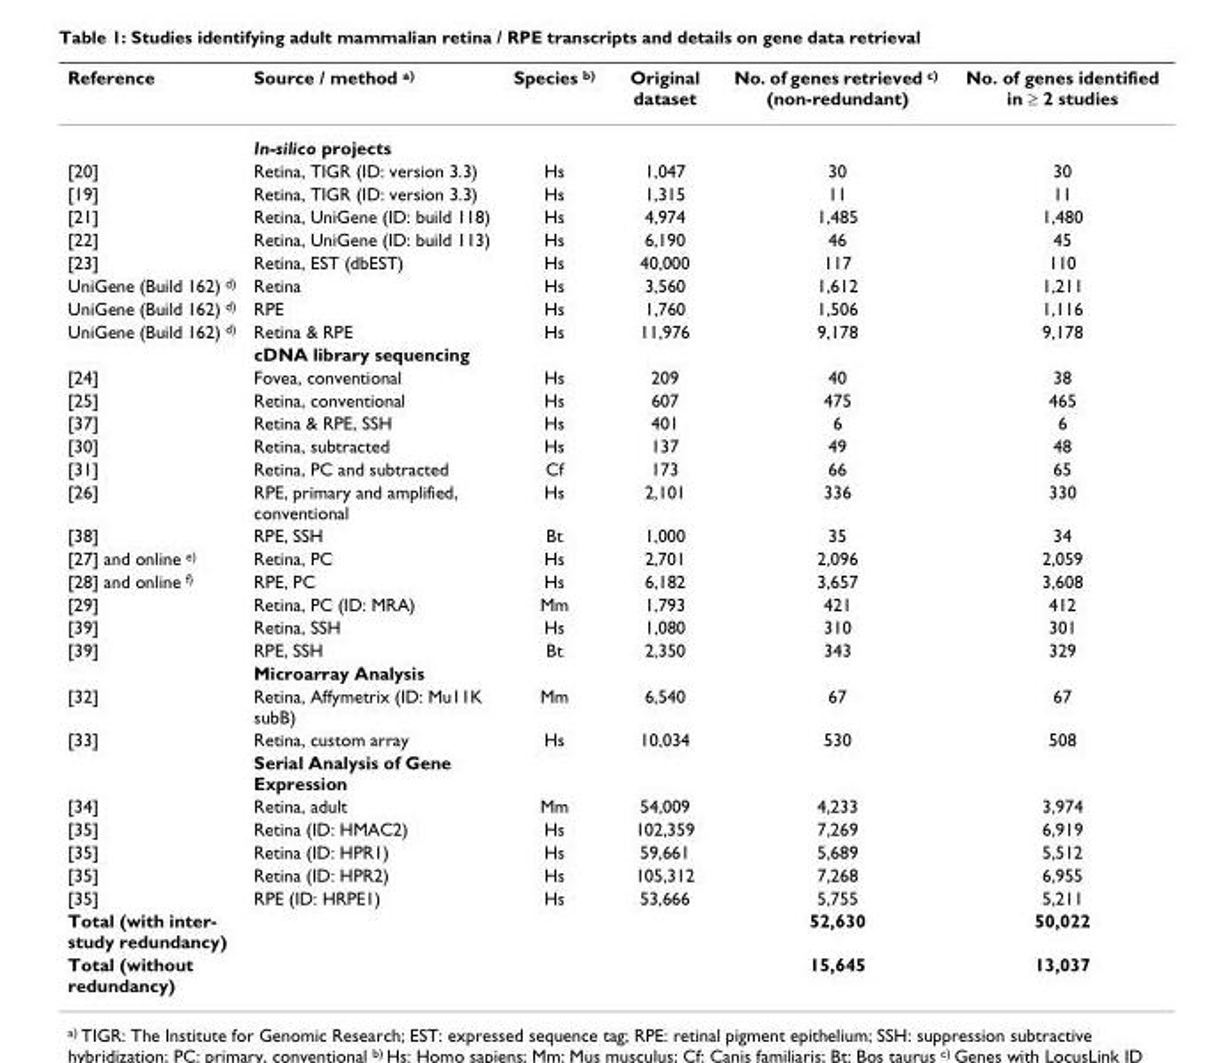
<table><thead><tr><td>Reference</td><td>Source / method <sup>a)</sup></td><td>Species <sup>b)</sup></td><td>Original dataset</td><td>No. of genes retrieved <sup>c)</sup> (non-redundant)</td><td>No. of genes identified in ≥ 2 studies</td></tr></thead><tbody><tr><td></td><td>In-silico projects</td><td></td><td></td><td></td><td></td></tr><tr><td>[20]</td><td>Retina, TIGR (ID: version 3.3)</td><td>Hs</td><td>1,047</td><td>30</td><td>30</td></tr><tr><td>[19]</td><td>Retina, TIGR (ID: version 3.3)</td><td>Hs</td><td>1,315</td><td>11</td><td>11</td></tr><tr><td>[21]</td><td>Retina, UniGene (ID: build 118)</td><td>Hs</td><td>4,974</td><td>1,485</td><td>1,480</td></tr><tr><td>[22]</td><td>Retina, UniGene (ID: build 113)</td><td>Hs</td><td>6,190</td><td>46</td><td>45</td></tr><tr><td>[23]</td><td>Retina, EST (dbEST)</td><td>Hs</td><td>40,000</td><td>117</td><td>110</td></tr><tr><td>UniGene (Build 162) <sup>d)</sup></td><td>Retina</td><td>Hs</td><td>3,560</td><td>1,612</td><td>1,211</td></tr><tr><td>UniGene (Build 162) <sup>d)</sup></td><td>RPE</td><td>Hs</td><td>1,760</td><td>1,506</td><td>1,116</td></tr><tr><td rowspan="2">UniGene (Build 162) <sup>d)</sup></td><td>Retina &amp; RPE</td><td>Hs</td><td>11,976</td><td>9,178</td><td>9,178</td></tr><tr><td>cDNA library sequencing</td><td></td><td></td><td></td><td></td></tr><tr><td>[24]</td><td>Fovea, conventional</td><td>Hs</td><td>209</td><td>40</td><td>38</td></tr><tr><td>[25]</td><td>Retina, conventional</td><td>Hs</td><td>607</td><td>475</td><td>465</td></tr><tr><td>[37]</td><td>Retina &amp; RPE, SSH</td><td>Hs</td><td>401</td><td>6</td><td>6</td></tr><tr><td>[30]</td><td>Retina, subtracted</td><td>Hs</td><td>137</td><td>49</td><td>48</td></tr><tr><td>[31]</td><td>Retina, PC and subtracted</td><td>Cf</td><td>173</td><td>66</td><td>65</td></tr><tr><td>[26]</td><td>RPE, primary and amplified, conventional</td><td>Hs</td><td>2,101</td><td>336</td><td>330</td></tr><tr><td>[38]</td><td>RPE, SSH</td><td>Bt</td><td>1,000</td><td>35</td><td>34</td></tr><tr><td>[27] and online <sup>e)</sup></td><td>Retina, PC</td><td>Hs</td><td>2,701</td><td>2,096</td><td>2,059</td></tr><tr><td>[28] and online <sup>f)</sup></td><td>RPE, PC</td><td>Hs</td><td>6,182</td><td>3,657</td><td>3,608</td></tr><tr><td>[29]</td><td>Retina, PC (ID: MRA)</td><td>Mm</td><td>1,793</td><td>421</td><td>412</td></tr><tr><td>[39]</td><td>Retina, SSH</td><td>Hs</td><td>1,080</td><td>310</td><td>301</td></tr><tr><td rowspan="2">[39]</td><td>RPE, SSH</td><td>Bt</td><td>2,350</td><td>343</td><td>329</td></tr><tr><td>Microarray Analysis</td><td></td><td></td><td></td><td></td></tr><tr><td>[32]</td><td>Retina, Affymetrix (ID: Mu11K subB)</td><td>Mm</td><td>6,540</td><td>67</td><td>67</td></tr><tr><td rowspan="2">[33]</td><td>Retina, custom array</td><td>Hs</td><td>10,034</td><td>530</td><td>508</td></tr><tr><td>Serial Analysis of Gene Expression</td><td></td><td></td><td></td><td></td></tr><tr><td>[34]</td><td>Retina, adult</td><td>Mm</td><td>54,009</td><td>4,233</td><td>3,974</td></tr><tr><td>[35]</td><td>Retina (ID: HMAC2)</td><td>Hs</td><td>102,359</td><td>7,269</td><td>6,919</td></tr><tr><td>[35]</td><td>Retina (ID: HPR1)</td><td>Hs</td><td>59,661</td><td>5,689</td><td>5,512</td></tr><tr><td>[35]</td><td>Retina (ID: HPR2)</td><td>Hs</td><td>105,312</td><td>7,268</td><td>6,955</td></tr><tr><td>[35]</td><td>RPE (ID: HRPE1)</td><td>Hs</td><td>53,666</td><td>5,755</td><td>5,211</td></tr><tr><td>Total (with inter- study redundancy)</td><td></td><td></td><td></td><td>52,630</td><td>50,022</td></tr><tr><td>Total (without redundancy)</td><td></td><td></td><td></td><td>15,645</td><td>13,037</td></tr></tbody></table>